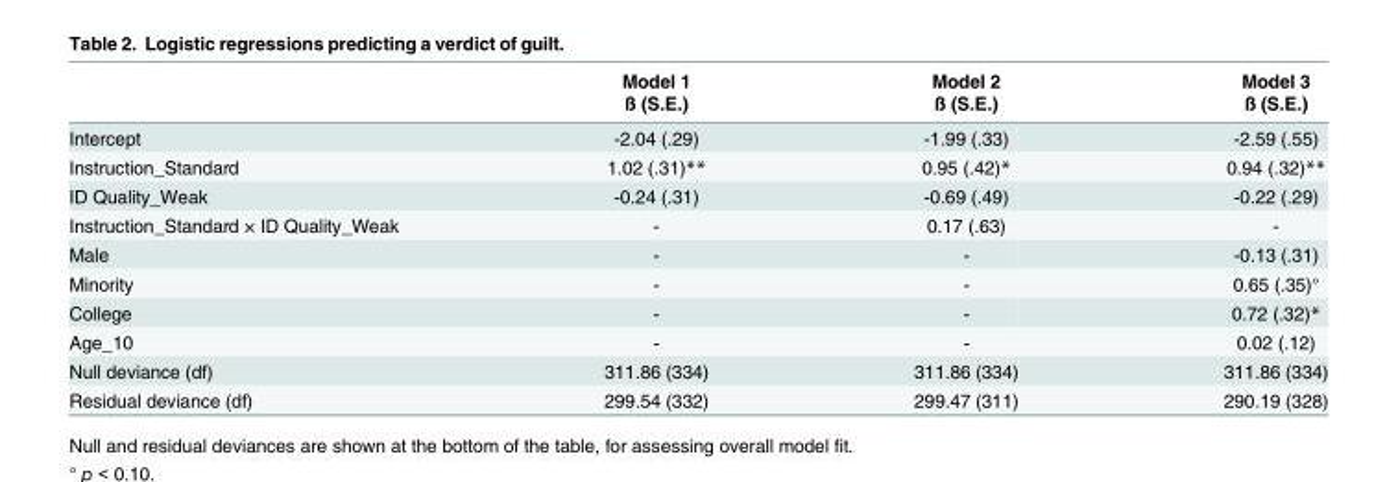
<table><thead><tr><td rowspan="2"></td><td rowspan="2">Model 1 ß (S.E.)</td><td rowspan="2">Model 2 ß (S.E.)</td><td rowspan="2">Model 3 ß (S.E.)</td></tr><tr></tr></thead><tbody><tr><td>Intercept</td><td>-2.04 (.29)</td><td>-1.99 (.33)</td><td>-2.59 (.55)</td></tr><tr><td>Instruction_Standard</td><td>1.02 (.31)**</td><td>0.95 (.42)*</td><td>0.94 (.32)**</td></tr><tr><td>ID Quality_Weak</td><td>-0.24 (.31)</td><td>-0.69 (.49)</td><td>-0.22 (.29)</td></tr><tr><td>Instruction_Standard × ID Quality_Weak</td><td>-</td><td>0.17 (.63)</td><td>-</td></tr><tr><td>Male</td><td>-</td><td>-</td><td>-0.13 (.31)</td></tr><tr><td>Minority</td><td>-</td><td>-</td><td>0.65 (.35)°</td></tr><tr><td>College</td><td>-</td><td>-</td><td>0.72 (.32)*</td></tr><tr><td>Age_10</td><td>-</td><td>-</td><td>0.02 (.12)</td></tr><tr><td>Null deviance (df)</td><td>311.86 (334)</td><td>311.86 (334)</td><td>311.86 (334)</td></tr><tr><td>Residual deviance (df)</td><td>299.54 (332)</td><td>299.47 (311)</td><td>290.19 (328)</td></tr></tbody></table>